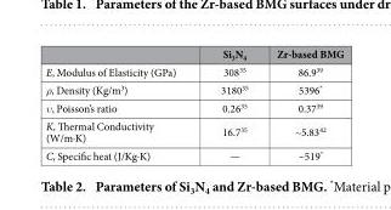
<table><thead><tr><td></td><td>Si<sub>3</sub>N<sub>4</sub></td><td>Zr-based BMG</td></tr></thead><tbody><tr><td>E, Modulus of Elasticity (GPa)</td><td>308<sup>35</sup></td><td>86.9<sup>39</sup></td></tr><tr><td>ρ, Density (Kg/m<sup>3</sup>)</td><td>3180<sup>35</sup></td><td>5396*</td></tr><tr><td>υ, Poisson’s ratio</td><td>0.26<sup>35</sup></td><td>0.37<sup>39</sup></td></tr><tr><td>K, Thermal Conductivity (W/m·K)</td><td>16.7<sup>35</sup></td><td>~5.83<sup>42</sup></td></tr><tr><td>C, Specific heat (J/Kg·K)</td><td>—</td><td>~519*</td></tr></tbody></table>